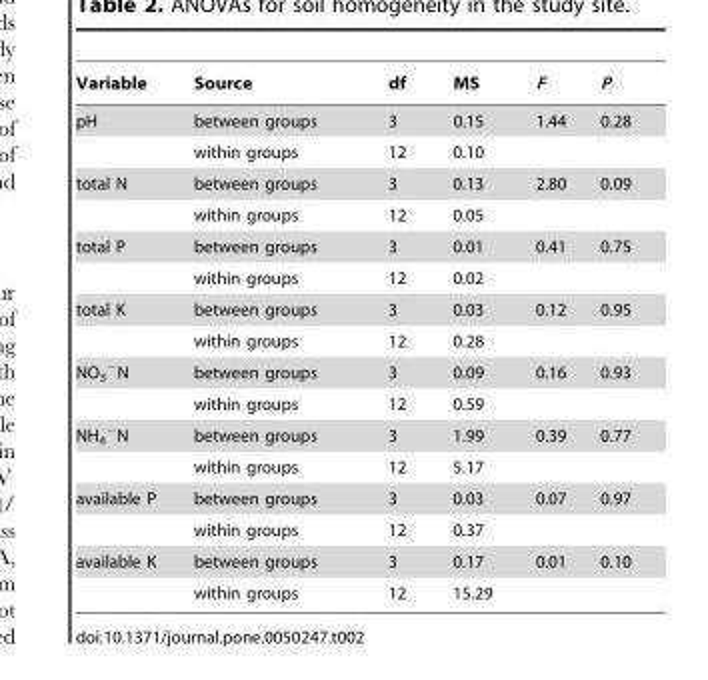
<table><thead><tr><td>Variable</td><td>Source</td><td>df</td><td>MS</td><td>F</td><td>P</td></tr></thead><tbody><tr><td rowspan="2">pH</td><td>between groups</td><td>3</td><td>0.15</td><td>1.44</td><td>0.28</td></tr><tr><td>within groups</td><td>12</td><td>0.10</td><td></td><td></td></tr><tr><td rowspan="2">total N</td><td>between groups</td><td>3</td><td>0.13</td><td>2.80</td><td>0.09</td></tr><tr><td>within groups</td><td>12</td><td>0.05</td><td></td><td></td></tr><tr><td rowspan="2">total P</td><td>between groups</td><td>3</td><td>0.01</td><td>0.41</td><td>0.75</td></tr><tr><td>within groups</td><td>12</td><td>0.02</td><td></td><td></td></tr><tr><td rowspan="2">total K</td><td>between groups</td><td>3</td><td>0.03</td><td>0.12</td><td>0.95</td></tr><tr><td>within groups</td><td>12</td><td>0.28</td><td></td><td></td></tr><tr><td rowspan="2">NO<sub>3</sub> <sup>−</sup>N</td><td>between groups</td><td>3</td><td>0.09</td><td>0.16</td><td>0.93</td></tr><tr><td>within groups</td><td>12</td><td>0.59</td><td></td><td></td></tr><tr><td rowspan="2">NH<sub>4</sub> <sup>−</sup>N</td><td>between groups</td><td>3</td><td>1.99</td><td>0.39</td><td>0.77</td></tr><tr><td>within groups</td><td>12</td><td>5.17</td><td></td><td></td></tr><tr><td rowspan="2">available P</td><td>between groups</td><td>3</td><td>0.03</td><td>0.07</td><td>0.97</td></tr><tr><td>within groups</td><td>12</td><td>0.37</td><td></td><td></td></tr><tr><td rowspan="2">available K</td><td>between groups</td><td>3</td><td>0.17</td><td>0.01</td><td>0.10</td></tr><tr><td>within groups</td><td>12</td><td>15.29</td><td></td><td></td></tr></tbody></table>